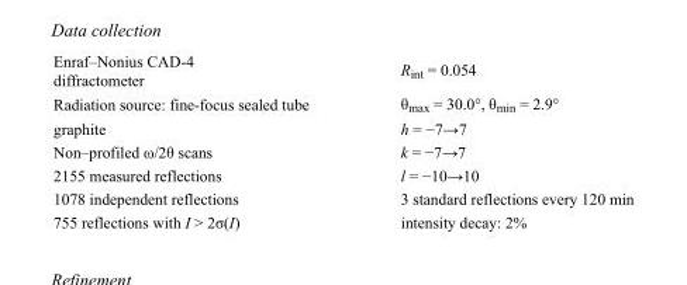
<table><tbody><tr><td>Enraf–Nonius CAD-4 diffractometer</td><td>R<sub>int</sub> = 0.054</td></tr><tr><td>Radiation source: fine-focus sealed tube</td><td>θ<sub>max</sub> = 30.0°, θ<sub>min</sub> = 2.9°</td></tr><tr><td>graphite</td><td>h = −7→7</td></tr><tr><td>Non–profiled ω/2θ scans</td><td>k = −7→7</td></tr><tr><td>2155 measured reflections</td><td>l = −10→10</td></tr><tr><td>1078 independent reflections</td><td>3 standard reflections every 120 min</td></tr><tr><td>755 reflections with I &gt; 2σ(I)</td><td>intensity decay: 2%</td></tr></tbody></table>